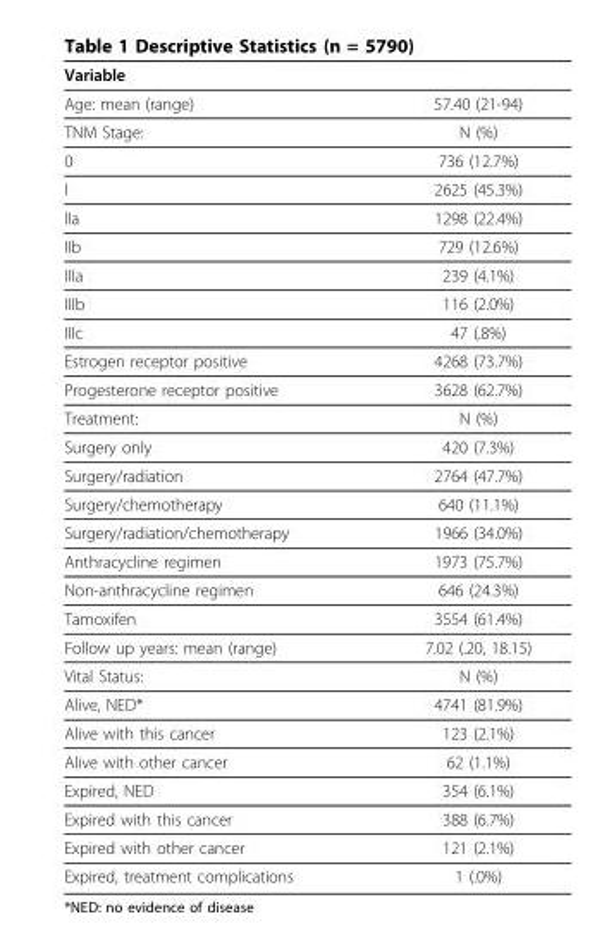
<table><thead><tr><td>Variable</td><td></td></tr></thead><tbody><tr><td>Age: mean (range)</td><td>57.40 (21-94)</td></tr><tr><td>TNM Stage:</td><td>N (%)</td></tr><tr><td>0</td><td>736 (12.7%)</td></tr><tr><td>I</td><td>2625 (45.3%)</td></tr><tr><td>IIa</td><td>1298 (22.4%)</td></tr><tr><td>IIb</td><td>729 (12.6%)</td></tr><tr><td>IIIa</td><td>239 (4.1%)</td></tr><tr><td>IIIb</td><td>116 (2.0%)</td></tr><tr><td>IIIc</td><td>47 (.8%)</td></tr><tr><td>Estrogen receptor positive</td><td>4268 (73.7%)</td></tr><tr><td>Progesterone receptor positive</td><td>3628 (62.7%)</td></tr><tr><td>Treatment:</td><td>N (%)</td></tr><tr><td>Surgery only</td><td>420 (7.3%)</td></tr><tr><td>Surgery/radiation</td><td>2764 (47.7%)</td></tr><tr><td>Surgery/chemotherapy</td><td>640 (11.1%)</td></tr><tr><td>Surgery/radiation/chemotherapy</td><td>1966 (34.0%)</td></tr><tr><td>Anthracycline regimen</td><td>1973 (75.7%)</td></tr><tr><td>Non-anthracycline regimen</td><td>646 (24.3%)</td></tr><tr><td>Tamoxifen</td><td>3554 (61.4%)</td></tr><tr><td>Follow up years: mean (range)</td><td>7.02 (.20, 18.15)</td></tr><tr><td>Vital Status:</td><td>N (%)</td></tr><tr><td>Alive, NED*</td><td>4741 (81.9%)</td></tr><tr><td>Alive with this cancer</td><td>123 (2.1%)</td></tr><tr><td>Alive with other cancer</td><td>62 (1.1%)</td></tr><tr><td>Expired, NED</td><td>354 (6.1%)</td></tr><tr><td>Expired with this cancer</td><td>388 (6.7%)</td></tr><tr><td>Expired with other cancer</td><td>121 (2.1%)</td></tr><tr><td>Expired, treatment complications</td><td>1 (.0%)</td></tr></tbody></table>